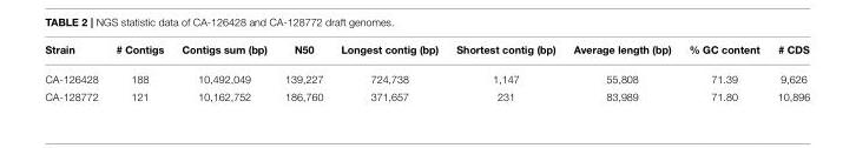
<table><thead><tr><td>Strain</td><td># Contigs</td><td>Contigs sum (bp)</td><td>N50</td><td>Longest contig (bp)</td><td>Shortest contig (bp)</td><td>Average length (bp)</td><td>% GC content</td><td># CDS</td></tr></thead><tbody><tr><td>CA-126428</td><td>188</td><td>10,492,049</td><td>139,227</td><td>724,738</td><td>1,147</td><td>55,808</td><td>71.39</td><td>9,626</td></tr><tr><td>CA-128772</td><td>121</td><td>10,162,752</td><td>186,760</td><td>371,657</td><td>231</td><td>83,989</td><td>71.80</td><td>10,896</td></tr></tbody></table>